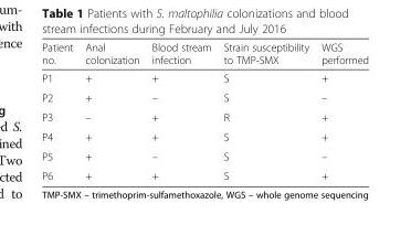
<table><thead><tr><td>Patient no.</td><td>Anal colonization</td><td>Blood stream infection</td><td>Strain susceptibility to TMP-SMX</td><td>WGS performed</td></tr></thead><tbody><tr><td>P1</td><td>+</td><td>+</td><td>S</td><td>+</td></tr><tr><td>P2</td><td>+</td><td>–</td><td>S</td><td>–</td></tr><tr><td>P3</td><td>–</td><td>+</td><td>R</td><td>+</td></tr><tr><td>P4</td><td>+</td><td>+</td><td>S</td><td>+</td></tr><tr><td>P5</td><td>+</td><td>–</td><td>S</td><td>–</td></tr><tr><td>P6</td><td>+</td><td>+</td><td>S</td><td>+</td></tr></tbody></table>